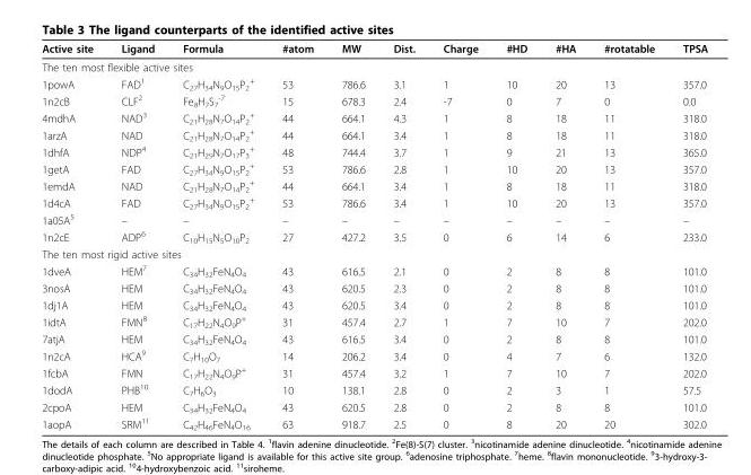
<table><thead><tr><td>Active site</td><td>Ligand</td><td>Formula</td><td>#atom</td><td>MW</td><td>Dist.</td><td>Charge</td><td>#HD</td><td>#HA</td><td>#rotatable</td><td>TPSA</td></tr></thead><tbody><tr><td colspan="11">The ten most flexible active sites</td></tr><tr><td>1powA</td><td>FAD<sup>1</sup></td><td>C<sub>27</sub>H<sub>34</sub>N<sub>9</sub>O<sub>15</sub>P<sub>2</sub> <sup>+</sup></td><td>53</td><td>786.6</td><td>3.1</td><td>1</td><td>10</td><td>20</td><td>13</td><td>357.0</td></tr><tr><td>1n2cB</td><td>CLF<sup>2</sup></td><td>Fe<sub>8</sub>H<sub>7</sub>S<sub>7</sub> <sup>-7</sup></td><td>15</td><td>678.3</td><td>2.4</td><td>-7</td><td>0</td><td>7</td><td>0</td><td>0.0</td></tr><tr><td>4mdhA</td><td>NAD<sup>3</sup></td><td>C<sub>21</sub>H<sub>28</sub>N<sub>7</sub>O<sub>14</sub>P<sub>2</sub> <sup>+</sup></td><td>44</td><td>664.1</td><td>4.3</td><td>1</td><td>8</td><td>18</td><td>11</td><td>318.0</td></tr><tr><td>1arzA</td><td>NAD</td><td>C<sub>21</sub>H<sub>28</sub>N<sub>7</sub>O<sub>14</sub>P<sub>2</sub> <sup>+</sup></td><td>44</td><td>664.1</td><td>3.4</td><td>1</td><td>8</td><td>18</td><td>11</td><td>318.0</td></tr><tr><td>1dhfA</td><td>NDP<sup>4</sup></td><td>C<sub>21</sub>H<sub>29</sub>N<sub>7</sub>O<sub>17</sub>P<sub>3</sub> <sup>+</sup></td><td>48</td><td>744.4</td><td>3.7</td><td>1</td><td>9</td><td>21</td><td>13</td><td>365.0</td></tr><tr><td>1getA</td><td>FAD</td><td>C<sub>27</sub>H<sub>34</sub>N<sub>9</sub>O<sub>15</sub>P<sub>2</sub> <sup>+</sup></td><td>53</td><td>786.6</td><td>2.8</td><td>1</td><td>10</td><td>20</td><td>13</td><td>357.0</td></tr><tr><td>1emdA</td><td>NAD</td><td>C<sub>21</sub>H<sub>28</sub>N<sub>7</sub>O<sub>14</sub>P<sub>2</sub> <sup>+</sup></td><td>44</td><td>664.1</td><td>3.4</td><td>1</td><td>8</td><td>18</td><td>11</td><td>318.0</td></tr><tr><td>1d4cA</td><td>FAD</td><td>C<sub>27</sub>H<sub>34</sub>N<sub>9</sub>O<sub>15</sub>P<sub>2</sub> <sup>+</sup></td><td>53</td><td>786.6</td><td>3.4</td><td>1</td><td>10</td><td>20</td><td>13</td><td>357.0</td></tr><tr><td>1a05A<sup>5</sup></td><td>–</td><td>–</td><td>–</td><td>–</td><td>–</td><td>–</td><td>–</td><td>–</td><td>–</td><td>–</td></tr><tr><td>1n2cE</td><td>ADP<sup>6</sup></td><td>C<sub>10</sub>H<sub>15</sub>N<sub>5</sub>O<sub>10</sub>P<sub>2</sub></td><td>27</td><td>427.2</td><td>3.5</td><td>0</td><td>6</td><td>14</td><td>6</td><td>233.0</td></tr><tr><td colspan="11">The ten most rigid active sites</td></tr><tr><td>1dveA</td><td>HEM<sup>7</sup></td><td>C<sub>34</sub>H<sub>32</sub>FeN<sub>4</sub>O<sub>4</sub></td><td>43</td><td>616.5</td><td>2.1</td><td>0</td><td>2</td><td>8</td><td>8</td><td>101.0</td></tr><tr><td>3nosA</td><td>HEM</td><td>C<sub>34</sub>H<sub>32</sub>FeN<sub>4</sub>O<sub>4</sub></td><td>43</td><td>620.5</td><td>2.3</td><td>0</td><td>2</td><td>8</td><td>8</td><td>101.0</td></tr><tr><td>1dj1A</td><td>HEM</td><td>C<sub>34</sub>H<sub>32</sub>FeN<sub>4</sub>O<sub>4</sub></td><td>43</td><td>620.5</td><td>3.4</td><td>0</td><td>2</td><td>8</td><td>8</td><td>101.0</td></tr><tr><td>1idtA</td><td>FMN<sup>8</sup></td><td>C<sub>17</sub>H<sub>22</sub>N<sub>4</sub>O<sub>9</sub>P<sup>+</sup></td><td>31</td><td>457.4</td><td>2.7</td><td>1</td><td>7</td><td>10</td><td>7</td><td>202.0</td></tr><tr><td>7atjA</td><td>HEM</td><td>C<sub>34</sub>H<sub>32</sub>FeN<sub>4</sub>O<sub>4</sub></td><td>43</td><td>616.5</td><td>3.4</td><td>0</td><td>2</td><td>8</td><td>8</td><td>101.0</td></tr><tr><td>1n2cA</td><td>HCA<sup>9</sup></td><td>C<sub>7</sub>H<sub>10</sub>O<sub>7</sub></td><td>14</td><td>206.2</td><td>3.4</td><td>0</td><td>4</td><td>7</td><td>6</td><td>132.0</td></tr><tr><td>1fcbA</td><td>FMN</td><td>C<sub>17</sub>H<sub>22</sub>N<sub>4</sub>O<sub>9</sub>P<sup>+</sup></td><td>31</td><td>457.4</td><td>3.2</td><td>1</td><td>7</td><td>10</td><td>7</td><td>202.0</td></tr><tr><td>1dodA</td><td>PHB<sup>10</sup></td><td>C<sub>7</sub>H<sub>6</sub>O<sub>3</sub></td><td>10</td><td>138.1</td><td>2.8</td><td>0</td><td>2</td><td>3</td><td>1</td><td>57.5</td></tr><tr><td>2cpoA</td><td>HEM</td><td>C<sub>34</sub>H<sub>32</sub>FeN<sub>4</sub>O<sub>4</sub></td><td>43</td><td>620.5</td><td>2.8</td><td>0</td><td>2</td><td>8</td><td>8</td><td>101.0</td></tr><tr><td>1aopA</td><td>SRM<sup>11</sup></td><td>C<sub>42</sub>H<sub>46</sub>FeN<sub>4</sub>O<sub>16</sub></td><td>63</td><td>918.7</td><td>2.5</td><td>0</td><td>8</td><td>20</td><td>20</td><td>302.0</td></tr></tbody></table>